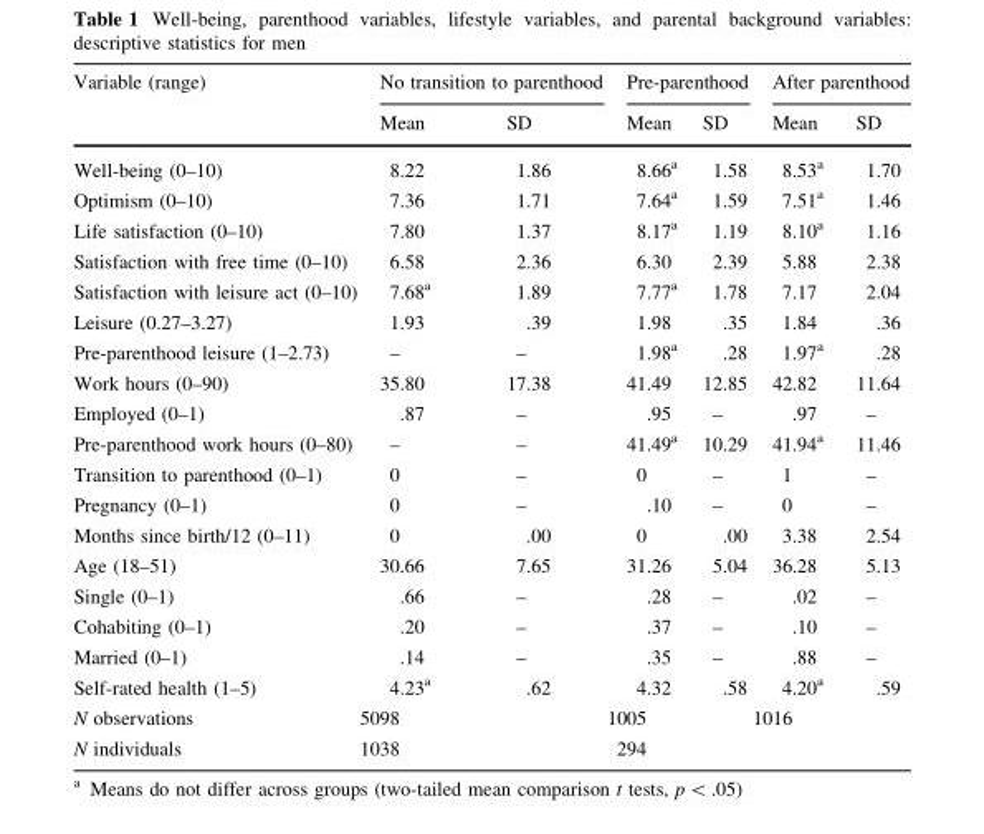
<table><thead><tr><td rowspan="2">Variable (range)</td><td colspan="2">No transition to parenthood</td><td colspan="2">Pre-parenthood</td><td colspan="2">After parenthood</td></tr><tr><td>Mean</td><td>SD</td><td>Mean</td><td>SD</td><td>Mean</td><td>SD</td></tr></thead><tbody><tr><td>Well-being (0–10)</td><td>8.22</td><td>1.86</td><td>8.66<sup>a</sup></td><td>1.58</td><td>8.53<sup>a</sup></td><td>1.70</td></tr><tr><td>Optimism (0–10)</td><td>7.36</td><td>1.71</td><td>7.64<sup>a</sup></td><td>1.59</td><td>7.51<sup>a</sup></td><td>1.46</td></tr><tr><td>Life satisfaction (0–10)</td><td>7.80</td><td>1.37</td><td>8.17<sup>a</sup></td><td>1.19</td><td>8.10<sup>a</sup></td><td>1.16</td></tr><tr><td>Satisfaction with free time (0–10)</td><td>6.58</td><td>2.36</td><td>6.30</td><td>2.39</td><td>5.88</td><td>2.38</td></tr><tr><td>Satisfaction with leisure act (0–10)</td><td>7.68<sup>a</sup></td><td>1.89</td><td>7.77<sup>a</sup></td><td>1.78</td><td>7.17</td><td>2.04</td></tr><tr><td>Leisure (0.27–3.27)</td><td>1.93</td><td>.39</td><td>1.98</td><td>.35</td><td>1.84</td><td>.36</td></tr><tr><td>Pre-parenthood leisure (1–2.73)</td><td>–</td><td>–</td><td>1.98<sup>a</sup></td><td>.28</td><td>1.97<sup>a</sup></td><td>.28</td></tr><tr><td>Work hours (0–90)</td><td>35.80</td><td>17.38</td><td>41.49</td><td>12.85</td><td>42.82</td><td>11.64</td></tr><tr><td>Employed (0–1)</td><td>.87</td><td>–</td><td>.95</td><td>–</td><td>.97</td><td>–</td></tr><tr><td>Pre-parenthood work hours (0–80)</td><td>–</td><td>–</td><td>41.49<sup>a</sup></td><td>10.29</td><td>41.94<sup>a</sup></td><td>11.46</td></tr><tr><td>Transition to parenthood (0–1)</td><td>0</td><td>–</td><td>0</td><td>–</td><td>1</td><td>–</td></tr><tr><td>Pregnancy (0–1)</td><td>0</td><td>–</td><td>.10</td><td>–</td><td>0</td><td>–</td></tr><tr><td>Months since birth/12 (0–11)</td><td>0</td><td>.00</td><td>0</td><td>.00</td><td>3.38</td><td>2.54</td></tr><tr><td>Age (18–51)</td><td>30.66</td><td>7.65</td><td>31.26</td><td>5.04</td><td>36.28</td><td>5.13</td></tr><tr><td>Single (0–1)</td><td>.66</td><td>–</td><td>.28</td><td>–</td><td>.02</td><td>–</td></tr><tr><td>Cohabiting (0–1)</td><td>.20</td><td>–</td><td>.37</td><td>–</td><td>.10</td><td>–</td></tr><tr><td>Married (0–1)</td><td>.14</td><td>–</td><td>.35</td><td>–</td><td>.88</td><td>–</td></tr><tr><td>Self-rated health (1–5)</td><td>4.23<sup>a</sup></td><td>.62</td><td>4.32</td><td>.58</td><td>4.20<sup>a</sup></td><td>.59</td></tr><tr><td>N observations</td><td colspan="2">5098</td><td colspan="2">1005</td><td colspan="2">1016</td></tr><tr><td>N individuals</td><td colspan="2">1038</td><td colspan="4">294</td></tr></tbody></table>